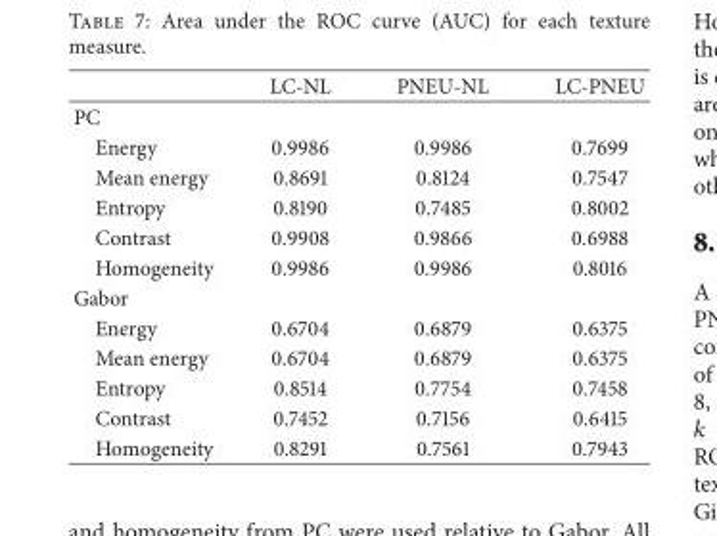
<table><thead><tr><td></td><td>LC-NL</td><td>PNEU-NL</td><td>LC-PNEU</td></tr></thead><tbody><tr><td colspan="4">PC</td></tr><tr><td>Energy</td><td>0.9986</td><td>0.9986</td><td>0.7699</td></tr><tr><td>Mean energy</td><td>0.8691</td><td>0.8124</td><td>0.7547</td></tr><tr><td>Entropy</td><td>0.8190</td><td>0.7485</td><td>0.8002</td></tr><tr><td>Contrast</td><td>0.9908</td><td>0.9866</td><td>0.6988</td></tr><tr><td>Homogeneity</td><td>0.9986</td><td>0.9986</td><td>0.8016</td></tr><tr><td colspan="4">Gabor</td></tr><tr><td>Energy</td><td>0.6704</td><td>0.6879</td><td>0.6375</td></tr><tr><td>Mean energy</td><td>0.6704</td><td>0.6879</td><td>0.6375</td></tr><tr><td>Entropy</td><td>0.8514</td><td>0.7754</td><td>0.7458</td></tr><tr><td>Contrast</td><td>0.7452</td><td>0.7156</td><td>0.6415</td></tr><tr><td>Homogeneity</td><td>0.8291</td><td>0.7561</td><td>0.7943</td></tr></tbody></table>